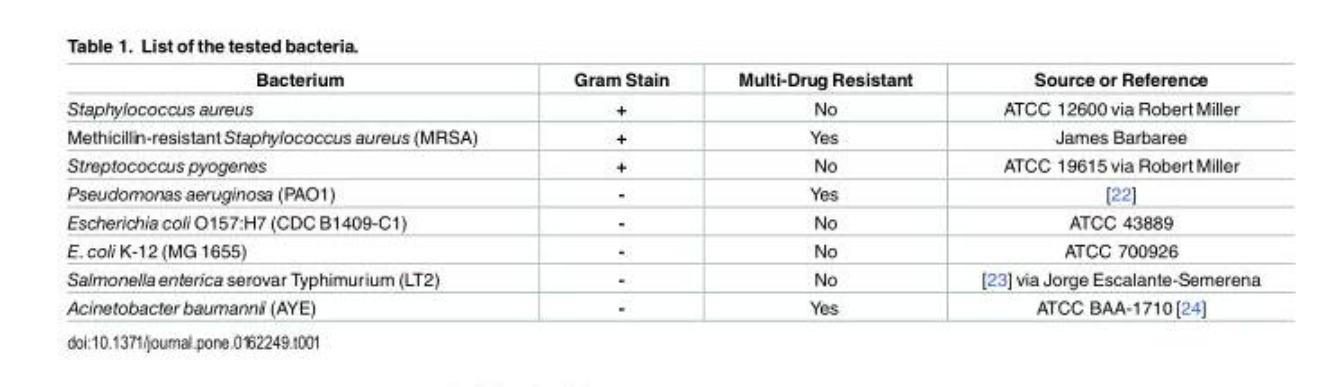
<table><thead><tr><td>Bacterium</td><td>Gram Stain</td><td>Multi-Drug Resistant</td><td>Source or Reference</td></tr></thead><tbody><tr><td>Staphylococcus aureus</td><td>+</td><td>No</td><td>ATCC 12600 via Robert Miller</td></tr><tr><td>Methicillin-resistant Staphylococcus aureus (MRSA)</td><td>+</td><td>Yes</td><td>James Barbaree</td></tr><tr><td>Streptococcus pyogenes</td><td>+</td><td>No</td><td>ATCC 19615 via Robert Miller</td></tr><tr><td>Pseudomonas aeruginosa (PAO1)</td><td>-</td><td>Yes</td><td>[22]</td></tr><tr><td>Escherichia coli O157:H7 (CDC B1409-C1)</td><td>-</td><td>No</td><td>ATCC 43889</td></tr><tr><td>E. coli K-12 (MG 1655)</td><td>-</td><td>No</td><td>ATCC 700926</td></tr><tr><td>Salmonella enterica serovar Typhimurium (LT2)</td><td>-</td><td>No</td><td>[23] via Jorge Escalante-Semerena</td></tr><tr><td>Acinetobacter baumannii (AYE)</td><td>-</td><td>Yes</td><td>ATCC BAA-1710 [24]</td></tr></tbody></table>